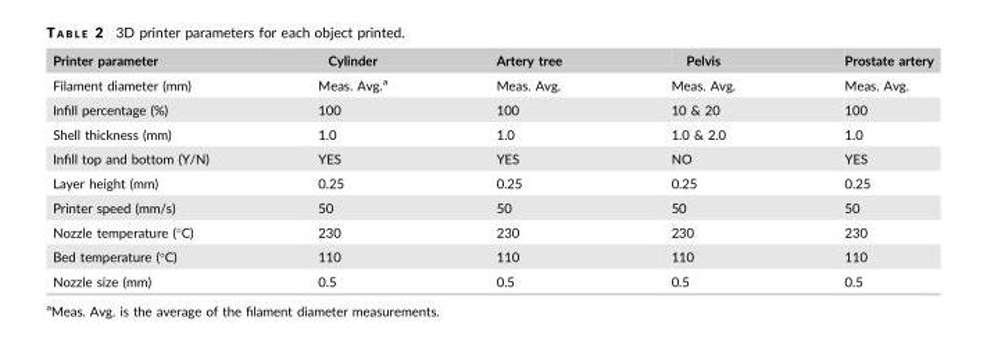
<table><thead><tr><td>Printer parameter</td><td>Cylinder</td><td>Artery tree</td><td>Pelvis</td><td>Prostate artery</td></tr></thead><tbody><tr><td>Filament diameter (mm)</td><td>Meas. Avg.<sup>a</sup></td><td>Meas. Avg.</td><td>Meas. Avg.</td><td>Meas. Avg.</td></tr><tr><td>Infill percentage (%)</td><td>100</td><td>100</td><td>10 &amp; 20</td><td>100</td></tr><tr><td>Shell thickness (mm)</td><td>1.0</td><td>1.0</td><td>1.0 &amp; 2.0</td><td>1.0</td></tr><tr><td>Infill top and bottom (Y/N)</td><td>YES</td><td>YES</td><td>NO</td><td>YES</td></tr><tr><td>Layer height (mm)</td><td>0.25</td><td>0.25</td><td>0.25</td><td>0.25</td></tr><tr><td>Printer speed (mm/s)</td><td>50</td><td>50</td><td>50</td><td>50</td></tr><tr><td>Nozzle temperature (°C)</td><td>230</td><td>230</td><td>230</td><td>230</td></tr><tr><td>Bed temperature (°C)</td><td>110</td><td>110</td><td>110</td><td>110</td></tr><tr><td>Nozzle size (mm)</td><td>0.5</td><td>0.5</td><td>0.5</td><td>0.5</td></tr></tbody></table>